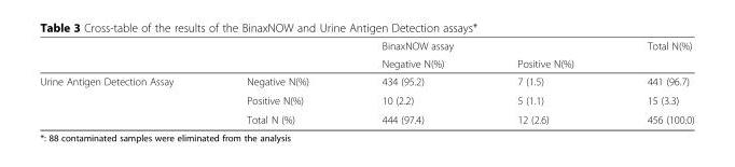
<table><thead><tr><td rowspan="2"></td><td rowspan="2"></td><td colspan="2">BinaxNOW assay</td><td rowspan="2">Total N(%)</td></tr><tr><td>Negative N(%)</td><td>Positive N(%)</td></tr></thead><tbody><tr><td rowspan="3">Urine Antigen Detection Assay</td><td>Negative N(%)</td><td>434 (95.2)</td><td>7 (1.5)</td><td>441 (96.7)</td></tr><tr><td>Positive N(%)</td><td>10 (2.2)</td><td>5 (1.1)</td><td>15 (3.3)</td></tr><tr><td>Total N (%)</td><td>444 (97.4)</td><td>12 (2.6)</td><td>456 (100.0)</td></tr></tbody></table>